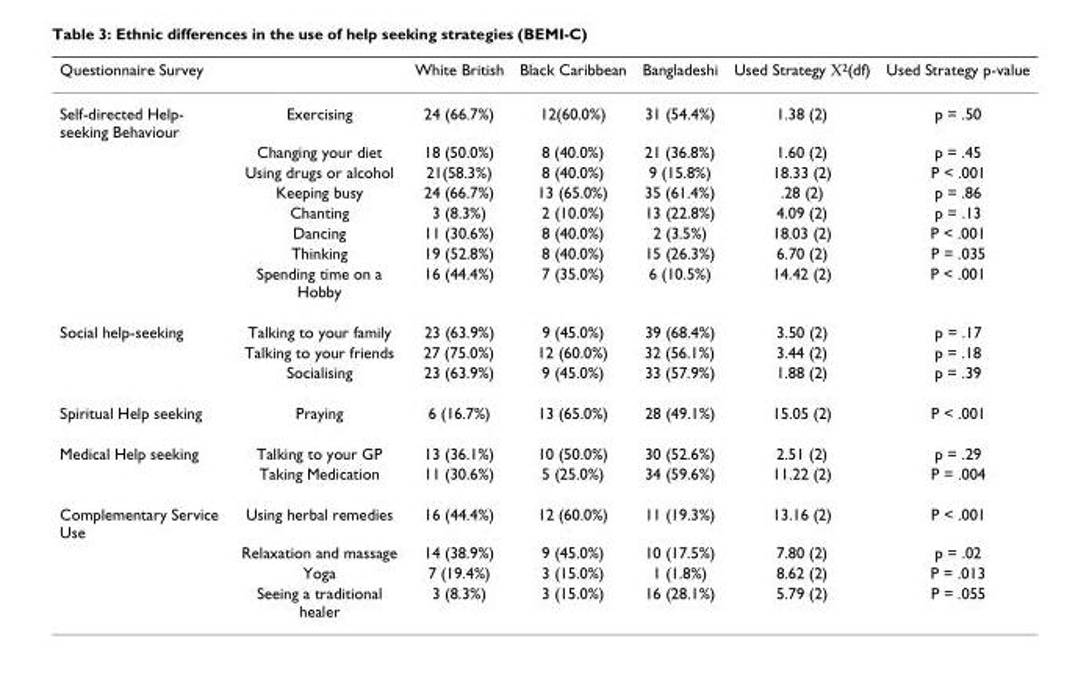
<table><thead><tr><td>Questionnaire Survey</td><td></td><td>White British</td><td>Black Caribbean</td><td>Bangladeshi</td><td>Used Strategy Χ<sup>2</sup>(df)</td><td>Used Strategy p-value</td></tr></thead><tbody><tr><td rowspan="8">Self-directed Help- seeking Behaviour</td><td>Exercising</td><td>24 (66.7%)</td><td>12(60.0%)</td><td>31 (54.4%)</td><td>1.38 (2)</td><td>p = .50</td></tr><tr><td>Changing your diet</td><td>18 (50.0%)</td><td>8 (40.0%)</td><td>21 (36.8%)</td><td>1.60 (2)</td><td>p = .45</td></tr><tr><td>Using drugs or alcohol</td><td>21(58.3%)</td><td>8 (40.0%)</td><td>9 (15.8%)</td><td>18.33 (2)</td><td>P &lt; .001</td></tr><tr><td>Keeping busy</td><td>24 (66.7%)</td><td>13 (65.0%)</td><td>35 (61.4%)</td><td>.28 (2)</td><td>p = .86</td></tr><tr><td>Chanting</td><td>3 (8.3%)</td><td>2 (10.0%)</td><td>13 (22.8%)</td><td>4.09 (2)</td><td>p = .13</td></tr><tr><td>Dancing</td><td>11 (30.6%)</td><td>8 (40.0%)</td><td>2 (3.5%)</td><td>18.03 (2)</td><td>P &lt; .001</td></tr><tr><td>Thinking</td><td>19 (52.8%)</td><td>8 (40.0%)</td><td>15 (26.3%)</td><td>6.70 (2)</td><td>P = .035</td></tr><tr><td>Spending time on a Hobby</td><td>16 (44.4%)</td><td>7 (35.0%)</td><td>6 (10.5%)</td><td>14.42 (2)</td><td>P &lt; .001</td></tr><tr><td rowspan="3">Social help-seeking</td><td>Talking to your family</td><td>23 (63.9%)</td><td>9 (45.0%)</td><td>39 (68.4%)</td><td>3.50 (2)</td><td>p = .17</td></tr><tr><td>Talking to your friends</td><td>27 (75.0%)</td><td>12 (60.0%)</td><td>32 (56.1%)</td><td>3.44 (2)</td><td>p = .18</td></tr><tr><td>Socialising</td><td>23 (63.9%)</td><td>9 (45.0%)</td><td>33 (57.9%)</td><td>1.88 (2)</td><td>p = .39</td></tr><tr><td>Spiritual Help seeking</td><td>Praying</td><td>6 (16.7%)</td><td>13 (65.0%)</td><td>28 (49.1%)</td><td>15.05 (2)</td><td>P &lt; .001</td></tr><tr><td rowspan="2">Medical Help seeking</td><td>Talking to your GP</td><td>13 (36.1%)</td><td>10 (50.0%)</td><td>30 (52.6%)</td><td>2.51 (2)</td><td>p = .29</td></tr><tr><td>Taking Medication</td><td>11 (30.6%)</td><td>5 (25.0%)</td><td>34 (59.6%)</td><td>11.22 (2)</td><td>P = .004</td></tr><tr><td rowspan="4">Complementary Service Use</td><td>Using herbal remedies</td><td>16 (44.4%)</td><td>12 (60.0%)</td><td>11 (19.3%)</td><td>13.16 (2)</td><td>P &lt; .001</td></tr><tr><td>Relaxation and massage</td><td>14 (38.9%)</td><td>9 (45.0%)</td><td>10 (17.5%)</td><td>7.80 (2)</td><td>p = .02</td></tr><tr><td>Yoga</td><td>7 (19.4%)</td><td>3 (15.0%)</td><td>1 (1.8%)</td><td>8.62 (2)</td><td>P = .013</td></tr><tr><td>Seeing a traditional healer</td><td>3 (8.3%)</td><td>3 (15.0%)</td><td>16 (28.1%)</td><td>5.79 (2)</td><td>P = .055</td></tr></tbody></table>